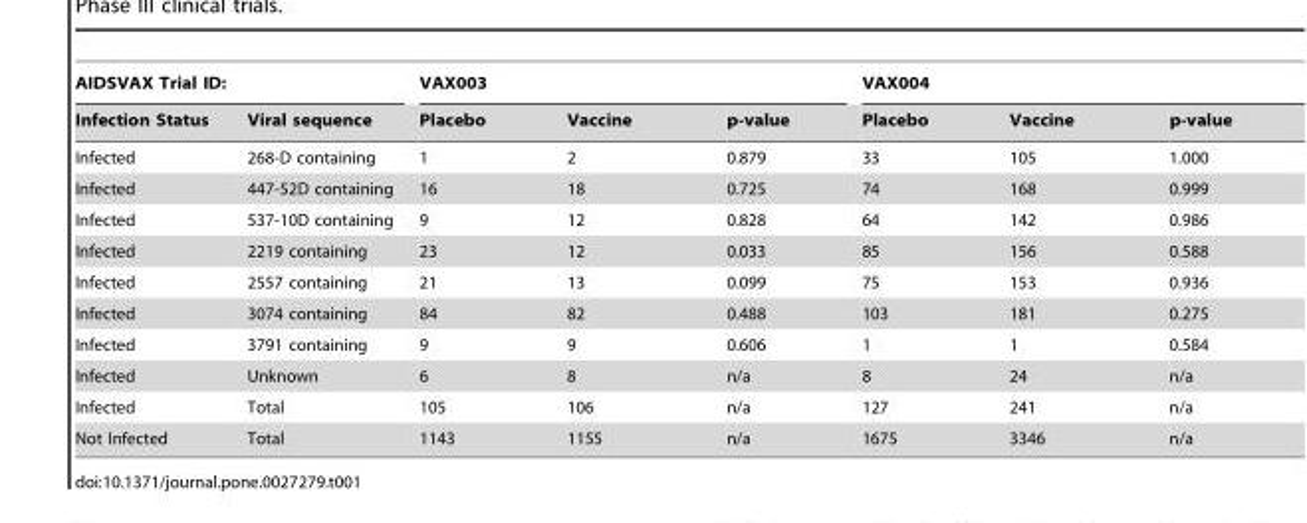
<table><thead><tr><td colspan="2">AIDSVAX Trial ID:</td><td colspan="3">VAX003</td><td colspan="3">VAX004</td></tr><tr><td>Infection Status</td><td>Viral sequence</td><td>Placebo</td><td>Vaccine</td><td>p-value</td><td>Placebo</td><td>Vaccine</td><td>p-value</td></tr></thead><tbody><tr><td>Infected</td><td>268-D containing</td><td>1</td><td>2</td><td>0.879</td><td>33</td><td>105</td><td>1.000</td></tr><tr><td>Infected</td><td>447-52D containing</td><td>16</td><td>18</td><td>0.725</td><td>74</td><td>168</td><td>0.999</td></tr><tr><td>Infected</td><td>537-10D containing</td><td>9</td><td>12</td><td>0.828</td><td>64</td><td>142</td><td>0.986</td></tr><tr><td>Infected</td><td>2219 containing</td><td>23</td><td>12</td><td>0.033</td><td>85</td><td>156</td><td>0.588</td></tr><tr><td>Infected</td><td>2557 containing</td><td>21</td><td>13</td><td>0.099</td><td>75</td><td>153</td><td>0.936</td></tr><tr><td>Infected</td><td>3074 containing</td><td>84</td><td>82</td><td>0.488</td><td>103</td><td>181</td><td>0.275</td></tr><tr><td>Infected</td><td>3791 containing</td><td>9</td><td>9</td><td>0.606</td><td>1</td><td>1</td><td>0.584</td></tr><tr><td>Infected</td><td>Unknown</td><td>6</td><td>8</td><td>n/a</td><td>8</td><td>24</td><td>n/a</td></tr><tr><td>Infected</td><td>Total</td><td>105</td><td>106</td><td>n/a</td><td>127</td><td>241</td><td>n/a</td></tr><tr><td>Not Infected</td><td>Total</td><td>1143</td><td>1155</td><td>n/a</td><td>1675</td><td>3346</td><td>n/a</td></tr></tbody></table>